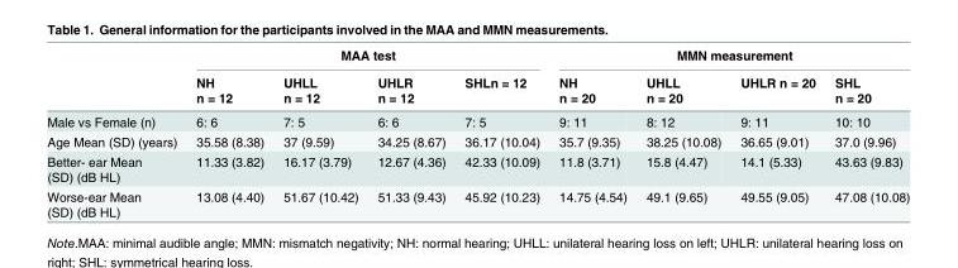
<table><thead><tr><td rowspan="2"></td><td colspan="4">MAA test</td><td colspan="4">MMN measurement</td></tr><tr><td>NH n = 12</td><td>UHLL n = 12</td><td>UHLR n = 12</td><td>SHLn = 12</td><td>NH n = 20</td><td>UHLL n = 20</td><td>UHLR n = 20</td><td>SHL n = 20</td></tr></thead><tbody><tr><td>Male vs Female (n)</td><td>6: 6</td><td>7: 5</td><td>6: 6</td><td>7: 5</td><td>9: 11</td><td>8: 12</td><td>9: 11</td><td>10: 10</td></tr><tr><td>Age Mean (SD) (years)</td><td>35.58 (8.38)</td><td>37 (9.59)</td><td>34.25 (8.67)</td><td>36.17 (10.04)</td><td>35.7 (9.35)</td><td>38.25 (10.08)</td><td>36.65 (9.01)</td><td>37.0 (9.96)</td></tr><tr><td>Better- ear Mean (SD) (dB HL)</td><td>11.33 (3.82)</td><td>16.17 (3.79)</td><td>12.67 (4.36)</td><td>42.33 (10.09)</td><td>11.8 (3.71)</td><td>15.8 (4.47)</td><td>14.1 (5.33)</td><td>43.63 (9.83)</td></tr><tr><td>Worse-ear Mean (SD) (dB HL)</td><td>13.08 (4.40)</td><td>51.67 (10.42)</td><td>51.33 (9.43)</td><td>45.92 (10.23)</td><td>14.75 (4.54)</td><td>49.1 (9.65)</td><td>49.55 (9.05)</td><td>47.08 (10.08)</td></tr></tbody></table>